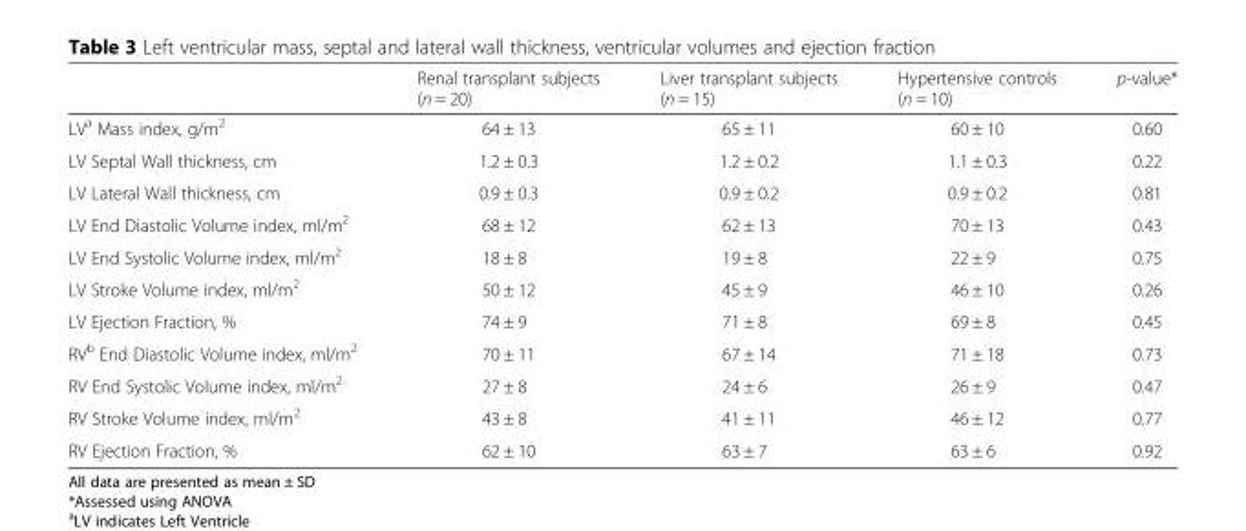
<table><thead><tr><td></td><td>Renal transplant subjects (n = 20)</td><td>Liver transplant subjects (n = 15)</td><td>Hypertensive controls (n = 10)</td><td>p-value*</td></tr></thead><tbody><tr><td>LV<sup>a</sup> Mass index, g/m<sup>2</sup></td><td>64 ± 13</td><td>65 ± 11</td><td>60 ± 10</td><td>0.60</td></tr><tr><td>LV Septal Wall thickness, cm</td><td>1.2 ± 0.3</td><td>1.2 ± 0.2</td><td>1.1 ± 0.3</td><td>0.22</td></tr><tr><td>LV Lateral Wall thickness, cm</td><td>0.9 ± 0.3</td><td>0.9 ± 0.2</td><td>0.9 ± 0.2</td><td>0.81</td></tr><tr><td>LV End Diastolic Volume index, ml/m<sup>2</sup></td><td>68 ± 12</td><td>62 ± 13</td><td>70 ± 13</td><td>0.43</td></tr><tr><td>LV End Systolic Volume index, ml/m<sup>2</sup></td><td>18 ± 8</td><td>19 ± 8</td><td>22 ± 9</td><td>0.75</td></tr><tr><td>LV Stroke Volume index, ml/m<sup>2</sup></td><td>50 ± 12</td><td>45 ± 9</td><td>46 ± 10</td><td>0.26</td></tr><tr><td>LV Ejection Fraction, %</td><td>74 ± 9</td><td>71 ± 8</td><td>69 ± 8</td><td>0.45</td></tr><tr><td>RV<sup>b</sup> End Diastolic Volume index, ml/m<sup>2</sup></td><td>70 ± 11</td><td>67 ± 14</td><td>71 ± 18</td><td>0.73</td></tr><tr><td>RV End Systolic Volume index, ml/m<sup>2</sup></td><td>27 ± 8</td><td>24 ± 6</td><td>26 ± 9</td><td>0.47</td></tr><tr><td>RV Stroke Volume index, ml/m<sup>2</sup></td><td>43 ± 8</td><td>41 ± 11</td><td>46 ± 12</td><td>0.77</td></tr><tr><td>RV Ejection Fraction, %</td><td>62 ± 10</td><td>63 ± 7</td><td>63 ± 6</td><td>0.92</td></tr></tbody></table>